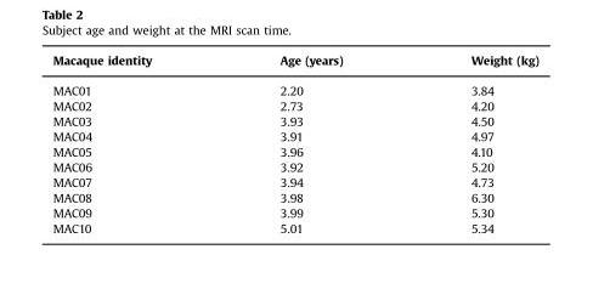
<table><thead><tr><td>Macaque identity</td><td>Age (years)</td><td>Weight (kg)</td></tr></thead><tbody><tr><td>MAC01</td><td>2.20</td><td>3.84</td></tr><tr><td>MAC02</td><td>2.73</td><td>4.20</td></tr><tr><td>MAC03</td><td>3.93</td><td>4.50</td></tr><tr><td>MAC04</td><td>3.91</td><td>4.97</td></tr><tr><td>MAC05</td><td>3.96</td><td>4.10</td></tr><tr><td>MAC06</td><td>3.92</td><td>5.20</td></tr><tr><td>MAC07</td><td>3.94</td><td>4.73</td></tr><tr><td>MAC08</td><td>3.98</td><td>6.30</td></tr><tr><td>MAC09</td><td>3.99</td><td>5.30</td></tr><tr><td>MAC10</td><td>5.01</td><td>5.34</td></tr></tbody></table>